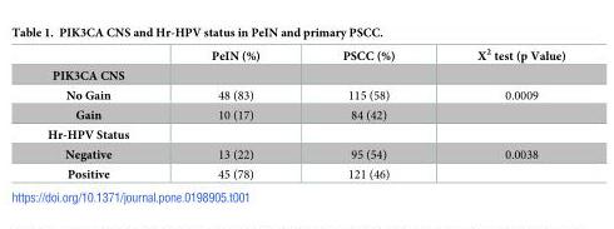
<table><thead><tr><td></td><td>PeIN (%)</td><td>PSCC (%)</td><td>X<sup>2</sup> test (p Value)</td></tr></thead><tbody><tr><td colspan="4">PIK3CA CNS</td></tr><tr><td>No Gain</td><td>48 (83)</td><td>115 (58)</td><td>0.0009</td></tr><tr><td>Gain</td><td>10 (17)</td><td>84 (42)</td><td></td></tr><tr><td colspan="4">Hr-HPV Status</td></tr><tr><td>Negative</td><td>13 (22)</td><td>95 (54)</td><td>0.0038</td></tr><tr><td>Positive</td><td>45 (78)</td><td>121 (46)</td><td></td></tr></tbody></table>